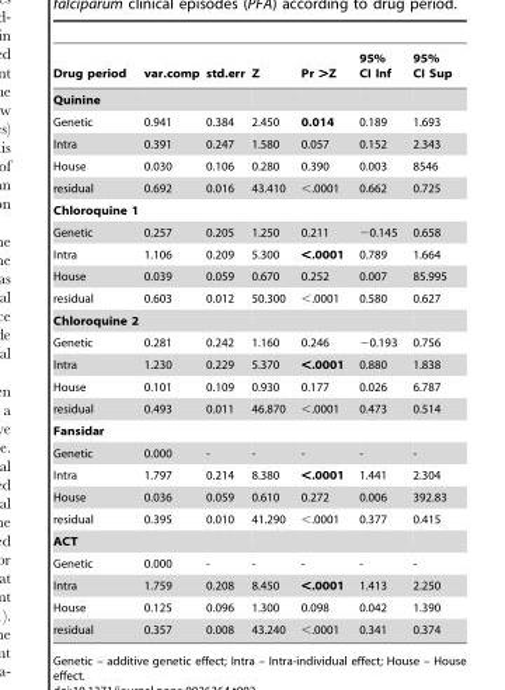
<table><thead><tr><td>Drug period</td><td>var.comp</td><td>std.err</td><td>Z</td><td>Pr &gt;Z</td><td>95% CI Inf</td><td>95% CI Sup</td></tr></thead><tbody><tr><td colspan="7">Quinine</td></tr><tr><td>Genetic</td><td>0.941</td><td>0.384</td><td>2.450</td><td>0.014</td><td>0.189</td><td>1.693</td></tr><tr><td>Intra</td><td>0.391</td><td>0.247</td><td>1.580</td><td>0.057</td><td>0.152</td><td>2.343</td></tr><tr><td>House</td><td>0.030</td><td>0.106</td><td>0.280</td><td>0.390</td><td>0.003</td><td>8546</td></tr><tr><td>residual</td><td>0.692</td><td>0.016</td><td>43.410</td><td>&lt;.0001</td><td>0.662</td><td>0.725</td></tr><tr><td colspan="7">Chloroquine 1</td></tr><tr><td>Genetic</td><td>0.257</td><td>0.205</td><td>1.250</td><td>0.211</td><td>−0.145</td><td>0.658</td></tr><tr><td>Intra</td><td>1.106</td><td>0.209</td><td>5.300</td><td>&lt;.0001</td><td>0.789</td><td>1.664</td></tr><tr><td>House</td><td>0.039</td><td>0.059</td><td>0.670</td><td>0.252</td><td>0.007</td><td>85.995</td></tr><tr><td>residual</td><td>0.603</td><td>0.012</td><td>50.300</td><td>&lt;.0001</td><td>0.580</td><td>0.627</td></tr><tr><td colspan="7">Chloroquine 2</td></tr><tr><td>Genetic</td><td>0.281</td><td>0.242</td><td>1.160</td><td>0.246</td><td>−0.193</td><td>0.756</td></tr><tr><td>Intra</td><td>1.230</td><td>0.229</td><td>5.370</td><td>&lt;.0001</td><td>0.880</td><td>1.838</td></tr><tr><td>House</td><td>0.101</td><td>0.109</td><td>0.930</td><td>0.177</td><td>0.026</td><td>6.787</td></tr><tr><td>residual</td><td>0.493</td><td>0.011</td><td>46.870</td><td>&lt;.0001</td><td>0.473</td><td>0.514</td></tr><tr><td colspan="7">Fansidar</td></tr><tr><td>Genetic</td><td>0.000</td><td>-</td><td>-</td><td>-</td><td>-</td><td>-</td></tr><tr><td>Intra</td><td>1.797</td><td>0.214</td><td>8.380</td><td>&lt;.0001</td><td>1.441</td><td>2.304</td></tr><tr><td>House</td><td>0.036</td><td>0.059</td><td>0.610</td><td>0.272</td><td>0.006</td><td>392.83</td></tr><tr><td>residual</td><td>0.395</td><td>0.010</td><td>41.290</td><td>&lt;.0001</td><td>0.377</td><td>0.415</td></tr><tr><td colspan="7">ACT</td></tr><tr><td>Genetic</td><td>0.000</td><td>-</td><td>-</td><td>-</td><td>-</td><td>-</td></tr><tr><td>Intra</td><td>1.759</td><td>0.208</td><td>8.450</td><td>&lt;.0001</td><td>1.413</td><td>2.250</td></tr><tr><td>House</td><td>0.125</td><td>0.096</td><td>1.300</td><td>0.098</td><td>0.042</td><td>1.390</td></tr><tr><td>residual</td><td>0.357</td><td>0.008</td><td>43.240</td><td>&lt;.0001</td><td>0.341</td><td>0.374</td></tr></tbody></table>